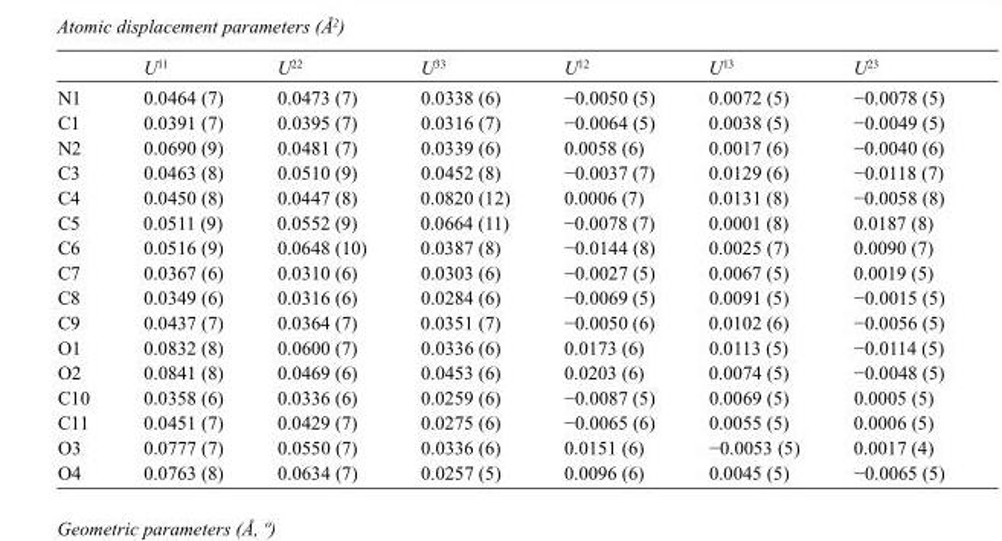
<table><thead><tr><td></td><td>U<sup>11</sup></td><td>U<sup>22</sup></td><td>U<sup>33</sup></td><td>U<sup>12</sup></td><td>U<sup>13</sup></td><td>U<sup>23</sup></td></tr></thead><tbody><tr><td>N1</td><td>0.0464 (7)</td><td>0.0473 (7)</td><td>0.0338 (6)</td><td>−0.0050 (5)</td><td>0.0072 (5)</td><td>−0.0078 (5)</td></tr><tr><td>C1</td><td>0.0391 (7)</td><td>0.0395 (7)</td><td>0.0316 (7)</td><td>−0.0064 (5)</td><td>0.0038 (5)</td><td>−0.0049 (5)</td></tr><tr><td>N2</td><td>0.0690 (9)</td><td>0.0481 (7)</td><td>0.0339 (6)</td><td>0.0058 (6)</td><td>0.0017 (6)</td><td>−0.0040 (6)</td></tr><tr><td>C3</td><td>0.0463 (8)</td><td>0.0510 (9)</td><td>0.0452 (8)</td><td>−0.0037 (7)</td><td>0.0129 (6)</td><td>−0.0118 (7)</td></tr><tr><td>C4</td><td>0.0450 (8)</td><td>0.0447 (8)</td><td>0.0820 (12)</td><td>0.0006 (7)</td><td>0.0131 (8)</td><td>−0.0058 (8)</td></tr><tr><td>C5</td><td>0.0511 (9)</td><td>0.0552 (9)</td><td>0.0664 (11)</td><td>−0.0078 (7)</td><td>0.0001 (8)</td><td>0.0187 (8)</td></tr><tr><td>C6</td><td>0.0516 (9)</td><td>0.0648 (10)</td><td>0.0387 (8)</td><td>−0.0144 (8)</td><td>0.0025 (7)</td><td>0.0090 (7)</td></tr><tr><td>C7</td><td>0.0367 (6)</td><td>0.0310 (6)</td><td>0.0303 (6)</td><td>−0.0027 (5)</td><td>0.0067 (5)</td><td>0.0019 (5)</td></tr><tr><td>C8</td><td>0.0349 (6)</td><td>0.0316 (6)</td><td>0.0284 (6)</td><td>−0.0069 (5)</td><td>0.0091 (5)</td><td>−0.0015 (5)</td></tr><tr><td>C9</td><td>0.0437 (7)</td><td>0.0364 (7)</td><td>0.0351 (7)</td><td>−0.0050 (6)</td><td>0.0102 (6)</td><td>−0.0056 (5)</td></tr><tr><td>O1</td><td>0.0832 (8)</td><td>0.0600 (7)</td><td>0.0336 (6)</td><td>0.0173 (6)</td><td>0.0113 (5)</td><td>−0.0114 (5)</td></tr><tr><td>O2</td><td>0.0841 (8)</td><td>0.0469 (6)</td><td>0.0453 (6)</td><td>0.0203 (6)</td><td>0.0074 (5)</td><td>−0.0048 (5)</td></tr><tr><td>C10</td><td>0.0358 (6)</td><td>0.0336 (6)</td><td>0.0259 (6)</td><td>−0.0087 (5)</td><td>0.0069 (5)</td><td>0.0005 (5)</td></tr><tr><td>C11</td><td>0.0451 (7)</td><td>0.0429 (7)</td><td>0.0275 (6)</td><td>−0.0065 (6)</td><td>0.0055 (5)</td><td>0.0006 (5)</td></tr><tr><td>O3</td><td>0.0777 (7)</td><td>0.0550 (7)</td><td>0.0336 (6)</td><td>0.0151 (6)</td><td>−0.0053 (5)</td><td>0.0017 (4)</td></tr><tr><td>O4</td><td>0.0763 (8)</td><td>0.0634 (7)</td><td>0.0257 (5)</td><td>0.0096 (6)</td><td>0.0045 (5)</td><td>−0.0065 (5)</td></tr></tbody></table>